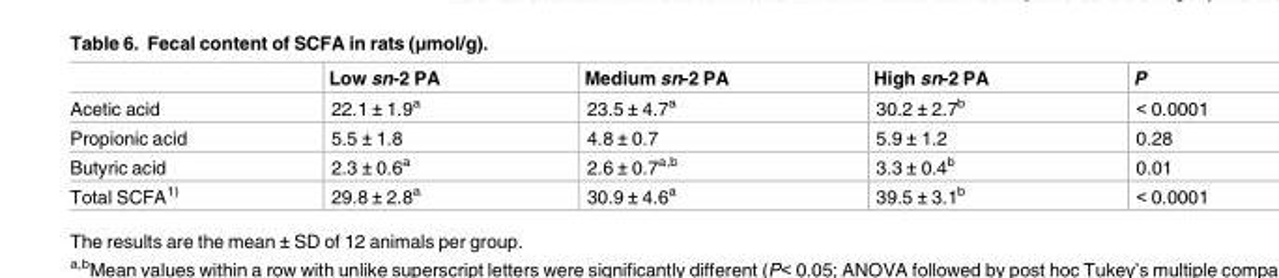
<table><thead><tr><td></td><td>Low sn-2 PA</td><td>Medium sn-2 PA</td><td>High sn-2 PA</td><td>P</td></tr></thead><tbody><tr><td>Acetic acid</td><td>22.1 ± 1.9<sup>a</sup></td><td>23.5 ± 4.7<sup>a</sup></td><td>30.2 ± 2.7<sup>b</sup></td><td>&lt; 0.0001</td></tr><tr><td>Propionic acid</td><td>5.5 ± 1.8</td><td>4.8 ± 0.7</td><td>5.9 ± 1.2</td><td>0.28</td></tr><tr><td>Butyric acid</td><td>2.3 ± 0.6<sup>a</sup></td><td>2.6 ± 0.7<sup>a,b</sup></td><td>3.3 ± 0.4<sup>b</sup></td><td>0.01</td></tr><tr><td>Total SCFA<sup>1)</sup></td><td>29.8 ± 2.8<sup>a</sup></td><td>30.9 ± 4.6<sup>a</sup></td><td>39.5 ± 3.1<sup>b</sup></td><td>&lt; 0.0001</td></tr></tbody></table>